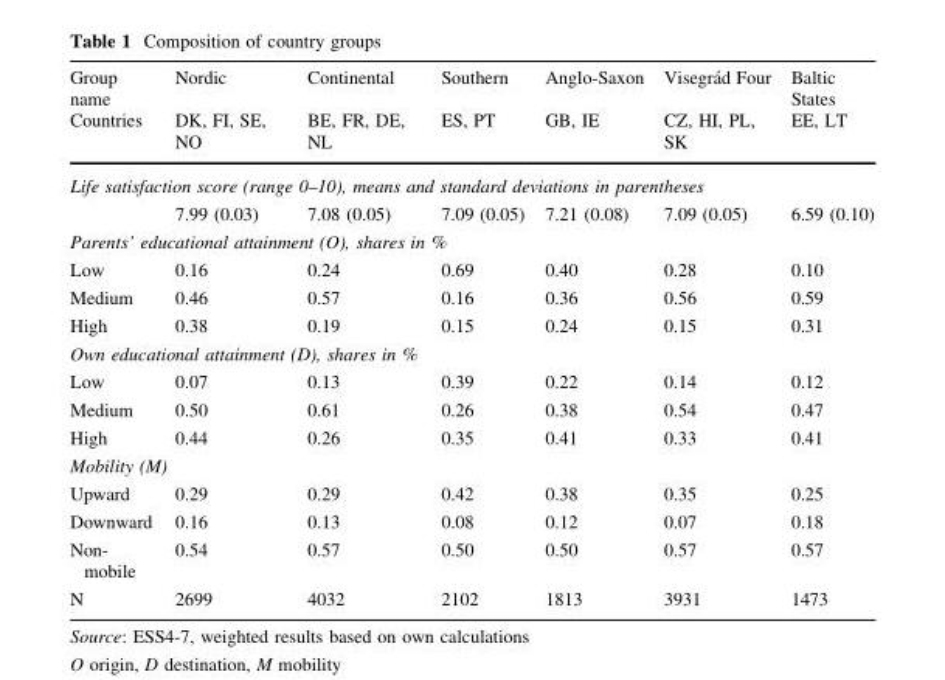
<table><thead><tr><td rowspan="2">Group name Countries</td><td rowspan="2">Nordic DK, FI, SE, NO</td><td rowspan="2">Continental BE, FR, DE, NL</td><td rowspan="2">Southern ES, PT</td><td rowspan="2">Anglo-Saxon GB, IE</td><td rowspan="2">Visegra´d Four CZ, HI, PL, SK</td><td rowspan="2">Baltic States EE, LT</td></tr><tr></tr></thead><tbody><tr><td colspan="7">Life satisfaction score (range 0–10), means and standard deviations in parentheses</td></tr><tr><td></td><td>7.99 (0.03)</td><td>7.08 (0.05)</td><td>7.09 (0.05)</td><td>7.21 (0.08)</td><td>7.09 (0.05)</td><td>6.59 (0.10)</td></tr><tr><td colspan="7">Parents’ educational attainment (O), shares in %</td></tr><tr><td>Low</td><td>0.16</td><td>0.24</td><td>0.69</td><td>0.40</td><td>0.28</td><td>0.10</td></tr><tr><td>Medium</td><td>0.46</td><td>0.57</td><td>0.16</td><td>0.36</td><td>0.56</td><td>0.59</td></tr><tr><td>High</td><td>0.38</td><td>0.19</td><td>0.15</td><td>0.24</td><td>0.15</td><td>0.31</td></tr><tr><td colspan="7">Own educational attainment (D), shares in %</td></tr><tr><td>Low</td><td>0.07</td><td>0.13</td><td>0.39</td><td>0.22</td><td>0.14</td><td>0.12</td></tr><tr><td>Medium</td><td>0.50</td><td>0.61</td><td>0.26</td><td>0.38</td><td>0.54</td><td>0.47</td></tr><tr><td>High</td><td>0.44</td><td>0.26</td><td>0.35</td><td>0.41</td><td>0.33</td><td>0.41</td></tr><tr><td colspan="7">Mobility (M)</td></tr><tr><td>Upward</td><td>0.29</td><td>0.29</td><td>0.42</td><td>0.38</td><td>0.35</td><td>0.25</td></tr><tr><td>Downward</td><td>0.16</td><td>0.13</td><td>0.08</td><td>0.12</td><td>0.07</td><td>0.18</td></tr><tr><td>Non- mobile</td><td>0.54</td><td>0.57</td><td>0.50</td><td>0.50</td><td>0.57</td><td>0.57</td></tr><tr><td>N</td><td>2699</td><td>4032</td><td>2102</td><td>1813</td><td>3931</td><td>1473</td></tr></tbody></table>